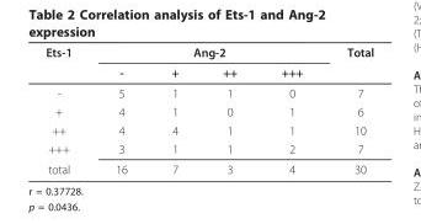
<table><thead><tr><td rowspan="2">Ets-1</td><td colspan="4">Ang-2</td><td rowspan="2">Total</td></tr><tr><td>-</td><td>+</td><td>++</td><td>+++</td></tr></thead><tbody><tr><td>-</td><td>5</td><td>1</td><td>1</td><td>0</td><td>7</td></tr><tr><td>+</td><td>4</td><td>1</td><td>0</td><td>1</td><td>6</td></tr><tr><td>++</td><td>4</td><td>4</td><td>1</td><td>1</td><td>10</td></tr><tr><td>+++</td><td>3</td><td>1</td><td>1</td><td>2</td><td>7</td></tr><tr><td>total</td><td>16</td><td>7</td><td>3</td><td>4</td><td>30</td></tr></tbody></table>